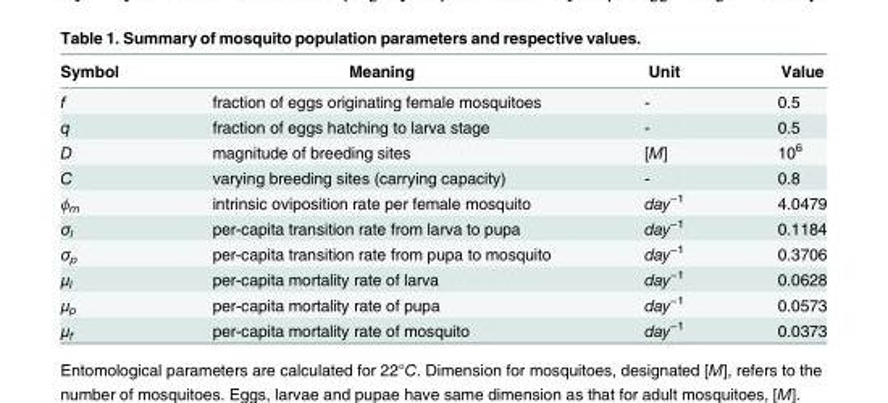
<table><thead><tr><td>Symbol</td><td>Meaning</td><td>Unit</td><td>Value</td></tr></thead><tbody><tr><td>f</td><td>fraction of eggs originating female mosquitoes</td><td>-</td><td>0.5</td></tr><tr><td>q</td><td>fraction of eggs hatching to larva stage</td><td>-</td><td>0.5</td></tr><tr><td>D</td><td>magnitude of breeding sites</td><td>[M]</td><td>10<sup>6</sup></td></tr><tr><td>C</td><td>varying breeding sites (carrying capacity)</td><td>-</td><td>0.8</td></tr><tr><td>ϕ<sub>m</sub></td><td>intrinsic oviposition rate per female mosquito</td><td>day<sup>−1</sup></td><td>4.0479</td></tr><tr><td>σ<sub>l</sub></td><td>per-capita transition rate from larva to pupa</td><td>day<sup>−1</sup></td><td>0.1184</td></tr><tr><td>σ<sub>p</sub></td><td>per-capita transition rate from pupa to mosquito</td><td>day<sup>−1</sup></td><td>0.3706</td></tr><tr><td>μ<sub>l</sub></td><td>per-capita mortality rate of larva</td><td>day<sup>−1</sup></td><td>0.0628</td></tr><tr><td>μ<sub>p</sub></td><td>per-capita mortality rate of pupa</td><td>day<sup>−1</sup></td><td>0.0573</td></tr><tr><td>μ<sub>f</sub></td><td>per-capita mortality rate of mosquito</td><td>day<sup>−1</sup></td><td>0.0373</td></tr></tbody></table>